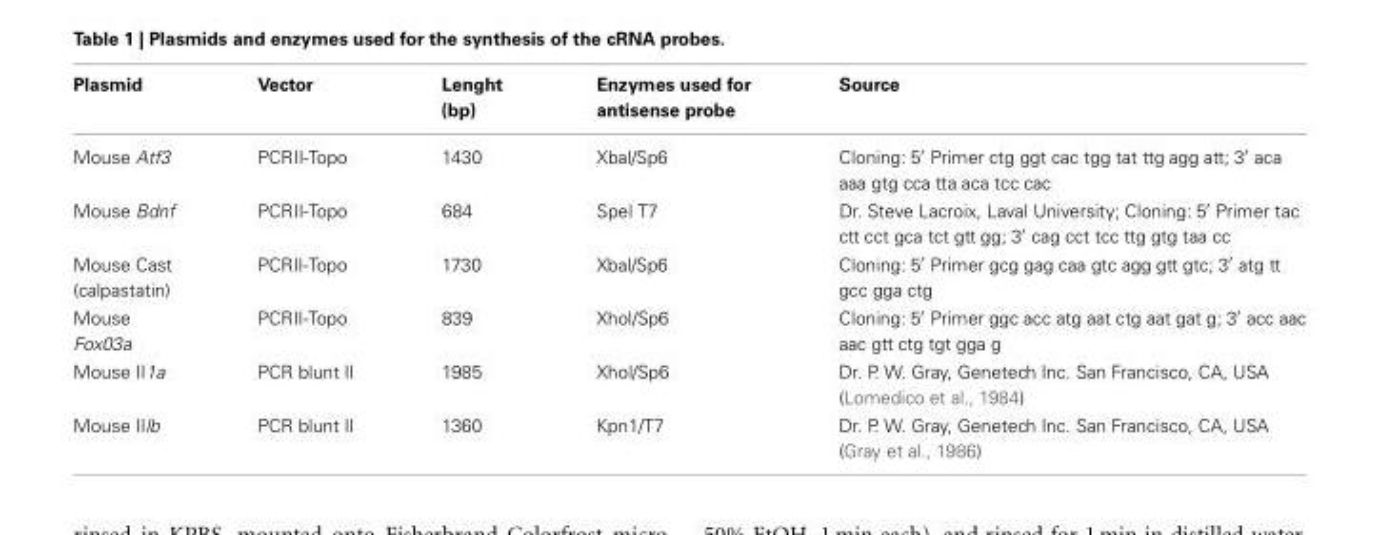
<table><thead><tr><td>Plasmid</td><td>Vector</td><td>Lenght (bp)</td><td>Enzymes used for antisense probe</td><td>Source</td></tr></thead><tbody><tr><td>Mouse Atf3</td><td>PCRII-Topo</td><td>1430</td><td>Xbal/Sp6</td><td>Cloning: 5′ Primer ctg ggt cac tgg tat ttg agg att; 3′ aca aaa gtg cca tta aca tcc cac</td></tr><tr><td>Mouse Bdnf</td><td>PCRII-Topo</td><td>684</td><td>Spel T7</td><td>Dr. Steve Lacroix, Laval University; Cloning: 5′ Primer tac ctt cct gca tct gtt gg; 3′ cag cct tcc ttg gtg taa cc</td></tr><tr><td>Mouse Cast (calpastatin)</td><td>PCRII-Topo</td><td>1730</td><td>Xbal/Sp6</td><td>Cloning: 5′ Primer gcg gag caa gtc agg gtt gtc; 3′ atg tt gcc gga ctg</td></tr><tr><td>Mouse Fox03a</td><td>PCRII-Topo</td><td>839</td><td>Xhol/Sp6</td><td>Cloning: 5′ Primer ggc acc atg aat ctg aat gat g; 3′ acc aac aac gtt ctg tgt gga g</td></tr><tr><td>Mouse II1a</td><td>PCR blunt II</td><td>1985</td><td>Xhol/Sp6</td><td>Dr. P. W. Gray, Genetech Inc. San Francisco, CA, USA (Lomedico et al., 1984)</td></tr><tr><td>Mouse IIlb</td><td>PCR blunt II</td><td>1360</td><td>Kpn1/T7</td><td>Dr. P. W. Gray, Genetech Inc. San Francisco, CA, USA (Gray et al., 1986)</td></tr></tbody></table>